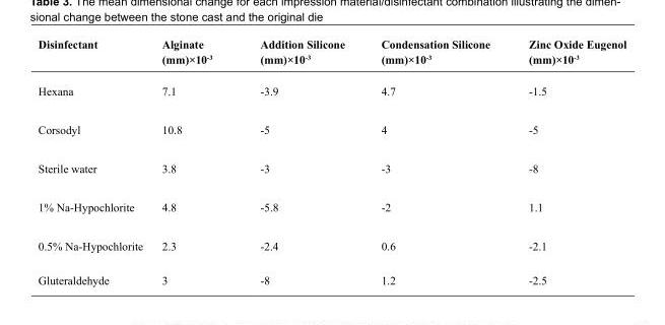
<table><thead><tr><td>Disinfectant</td><td>Alginate (mm)×10<sup>-3</sup></td><td>Addition Silicone (mm)×10<sup>-3</sup></td><td>Condensation Silicone (mm)×10<sup>-3</sup></td><td>Zinc Oxide Eugenol (mm)×10<sup>-3</sup></td></tr></thead><tbody><tr><td>Hexana</td><td>7.1</td><td>-3.9</td><td>4.7</td><td>-1.5</td></tr><tr><td>Corsodyl</td><td>10.8</td><td>-5</td><td>4</td><td>-5</td></tr><tr><td>Sterile water</td><td>3.8</td><td>-3</td><td>-3</td><td>-8</td></tr><tr><td>1% Na-Hypochlorite</td><td>4.8</td><td>-5.8</td><td>-2</td><td>1.1</td></tr><tr><td>0.5% Na-Hypochlorite</td><td>2.3</td><td>-2.4</td><td>0.6</td><td>-2.1</td></tr><tr><td>Gluteraldehyde</td><td>3</td><td>-8</td><td>1.2</td><td>-2.5</td></tr></tbody></table>